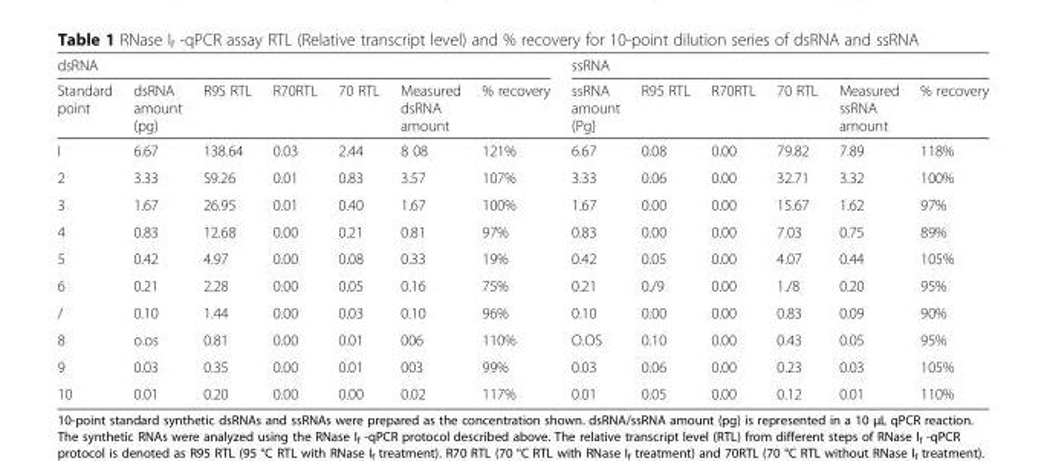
<table><thead><tr><td colspan="7">dsRNA</td><td colspan="6">ssRNA</td></tr><tr><td>Standard point</td><td>dsRNA amount (pg)</td><td>R9S RTL</td><td>R70RTL</td><td>70 RTL</td><td>Measured dsRNA amount</td><td>% recovery</td><td>ssRNA amount (Pg}</td><td>R95 RTL</td><td>R70RTL</td><td>70 RTL</td><td>Measured ssRNA amount</td><td>% recovery</td></tr></thead><tbody><tr><td>I</td><td>6.67</td><td>138.64</td><td>0.03</td><td>2.44</td><td>8 08</td><td>121%</td><td>6.67</td><td>0.08</td><td>0.00</td><td>79.82</td><td>7.89</td><td>118%</td></tr><tr><td>2</td><td>3.33</td><td>S9.26</td><td>0.01</td><td>0.83</td><td>3.57</td><td>107%</td><td>3.33</td><td>0.06</td><td>0.00</td><td>32.71</td><td>3.32</td><td>100%</td></tr><tr><td>3</td><td>1.67</td><td>26.95</td><td>0.01</td><td>0.40</td><td>1.67</td><td>100%</td><td>1.67</td><td>0.00</td><td>0.00</td><td>15.67</td><td>1.62</td><td>97%</td></tr><tr><td>4</td><td>0.83</td><td>12.68</td><td>0.00</td><td>0.21</td><td>0.81</td><td>97%</td><td>0.83</td><td>0.00</td><td>0.00</td><td>7.03</td><td>0.75</td><td>89%</td></tr><tr><td>5</td><td>0.42</td><td>4.97</td><td>0.00</td><td>0.08</td><td>0.33</td><td>19%</td><td>0.42</td><td>0.05</td><td>0.00</td><td>4.07</td><td>0.44</td><td>105%</td></tr><tr><td>6</td><td>0.21</td><td>2.28</td><td>0.00</td><td>0.05</td><td>0.16</td><td>75%</td><td>0.21</td><td>0./9</td><td>0.00</td><td>1./8</td><td>0.20</td><td>95%</td></tr><tr><td>/</td><td>0.10</td><td>1.44</td><td>0.00</td><td>0.03</td><td>0.10</td><td>96%</td><td>0.10</td><td>0.00</td><td>0.00</td><td>0.83</td><td>0.09</td><td>90%</td></tr><tr><td>8</td><td>o.os</td><td>0.81</td><td>0.00</td><td>0.01</td><td>006</td><td>110%</td><td>O.OS</td><td>0.10</td><td>0.00</td><td>0.43</td><td>0.05</td><td>95%</td></tr><tr><td>9</td><td>0.03</td><td>0.35</td><td>0.00</td><td>0.01</td><td>003</td><td>99%</td><td>0.03</td><td>0.06</td><td>0.00</td><td>0.23</td><td>0.03</td><td>105%</td></tr><tr><td>10</td><td>0.01</td><td>0.20</td><td>0.00</td><td>0.00</td><td>0.02</td><td>117%</td><td>0.01</td><td>0.05</td><td>0.00</td><td>0.12</td><td>0.01</td><td>110%</td></tr></tbody></table>